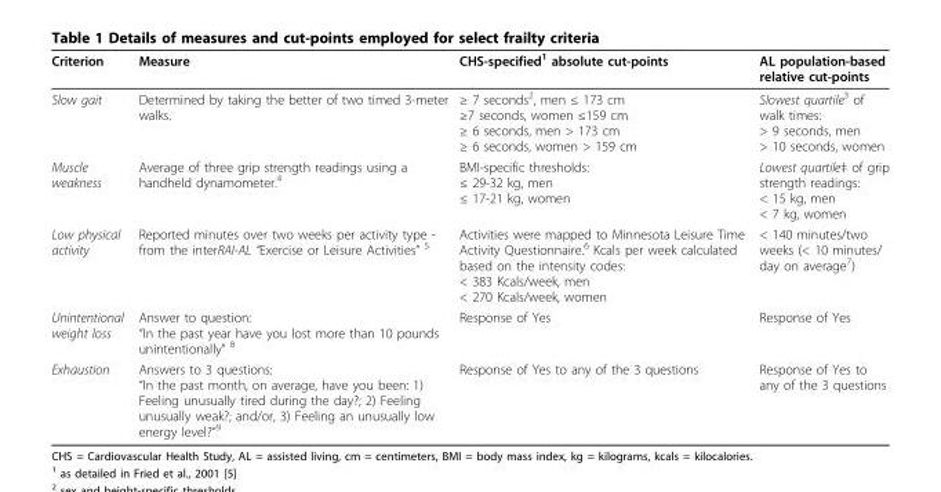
<table><thead><tr><td>Criterion</td><td>Measure</td><td>CHS-specified<sup>1</sup> absolute cut-points</td><td>AL population-based relative cut-points</td></tr></thead><tbody><tr><td>Slow gait</td><td>Determined by taking the better of two timed 3-meter walks.</td><td>≥ 7 seconds<sup>2</sup>, men ≤ 173 cm ≥7 seconds, women ≤159 cm ≥ 6 seconds, men &gt; 173 cm ≥ 6 seconds, women &gt; 159 cm</td><td>Slowest quartile<sup>3</sup> of walk times: &gt; 9 seconds, men &gt; 10 seconds, women</td></tr><tr><td>Muscle weakness</td><td>Average of three grip strength readings using a handheld dynamometer.<sup>4</sup></td><td>BMI-specific thresholds: ≤ 29-32 kg, men ≤ 17-21 kg, women</td><td>Lowest quartile‡ of grip strength readings: &lt; 15 kg, men &lt; 7 kg, women</td></tr><tr><td>Low physical activity</td><td>Reported minutes over two weeks per activity type - from the interRAI-AL “Exercise or Leisure Activities” 5</td><td>Activities were mapped to Minnesota Leisure Time Activity Questionnaire.<sup>6</sup> Kcals per week calculated based on the intensity codes: &lt; 383 Kcals/week, men &lt; 270 Kcals/week, women</td><td>&lt; 140 minutes/two weeks (&lt; 10 minutes/ day on average<sup>7</sup>)</td></tr><tr><td>Unintentional weight loss</td><td>Answer to question: “In the past year have you lost more than 10 pounds unintentionally” 8</td><td>Response of Yes</td><td>Response of Yes</td></tr><tr><td>Exhaustion</td><td>Answers to 3 questions: “In the past month, on average, have you been: 1) Feeling unusually tired during the day?; 2) Feeling unusually weak?; and/or, 3) Feeling an unusually low energy level?”9</td><td>Response of Yes to any of the 3 questions</td><td>Response of Yes to any of the 3 questions</td></tr></tbody></table>